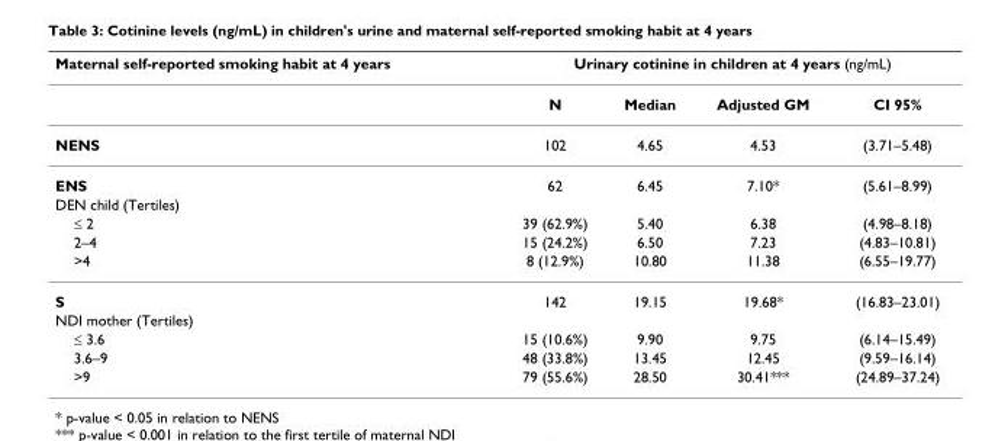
<table><thead><tr><td rowspan="2">Maternal self-reported smoking habit at 4 years</td><td colspan="4">Urinary cotinine in children at 4 years (ng/mL)</td></tr><tr><td>N</td><td>Median</td><td>Adjusted GM</td><td>CI 95%</td></tr></thead><tbody><tr><td>NENS</td><td>102</td><td>4.65</td><td>4.53</td><td>(3.71–5.48)</td></tr><tr><td>ENS</td><td>62</td><td>6.45</td><td>7.10*</td><td>(5.61–8.99)</td></tr><tr><td colspan="5">DEN child (Tertiles)</td></tr><tr><td>≤ 2</td><td>39 (62.9%)</td><td>5.40</td><td>6.38</td><td>(4.98–8.18)</td></tr><tr><td>2–4</td><td>15 (24.2%)</td><td>6.50</td><td>7.23</td><td>(4.83–10.81)</td></tr><tr><td>&gt;4</td><td>8 (12.9%)</td><td>10.80</td><td>11.38</td><td>(6.55–19.77)</td></tr><tr><td>S</td><td>142</td><td>19.15</td><td>19.68*</td><td>(16.83–23.01)</td></tr><tr><td colspan="5">NDI mother (Tertiles)</td></tr><tr><td>≤ 3.6</td><td>15 (10.6%)</td><td>9.90</td><td>9.75</td><td>(6.14–15.49)</td></tr><tr><td>3.6–9</td><td>48 (33.8%)</td><td>13.45</td><td>12.45</td><td>(9.59–16.14)</td></tr><tr><td>&gt;9</td><td>79 (55.6%)</td><td>28.50</td><td>30.41***</td><td>(24.89–37.24)</td></tr></tbody></table>